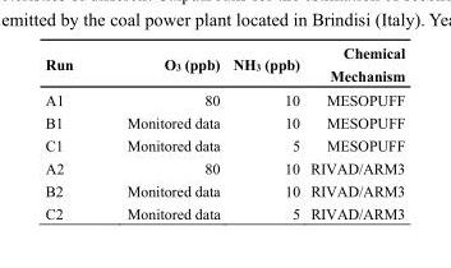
<table><thead><tr><td>Run</td><td>O<sub>3</sub> (ppb)</td><td>NH<sub>3</sub> (ppb)</td><td>Chemical Mechanism</td></tr></thead><tbody><tr><td>A1</td><td>80</td><td>10</td><td>MESOPUFF</td></tr><tr><td>B1</td><td>Monitored data</td><td>10</td><td>MESOPUFF</td></tr><tr><td>C1</td><td>Monitored data</td><td>5</td><td>MESOPUFF</td></tr><tr><td>A2</td><td>80</td><td>10</td><td>RIVAD/ARM3</td></tr><tr><td>B2</td><td>Monitored data</td><td>10</td><td>RIVAD/ARM3</td></tr><tr><td>C2</td><td>Monitored data</td><td>5</td><td>RIVAD/ARM3</td></tr></tbody></table>